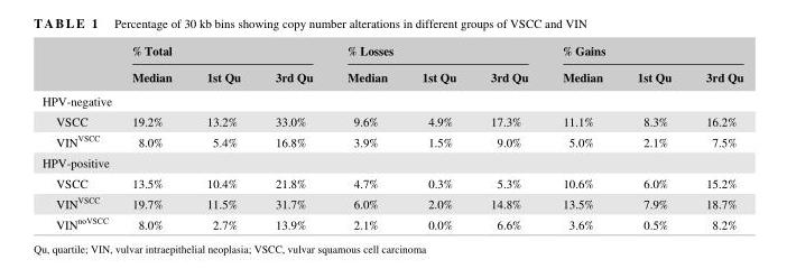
<table><thead><tr><td rowspan="2"></td><td colspan="3">% Total</td><td colspan="3">% Losses</td><td colspan="3">% Gains</td></tr><tr><td>Median</td><td>1st Qu</td><td>3rd Qu</td><td>Median</td><td>1st Qu</td><td>3rd Qu</td><td>Median</td><td>1st Qu</td><td>3rd Qu</td></tr></thead><tbody><tr><td colspan="10">HPV- negative</td></tr><tr><td>VSCC</td><td>19.2%</td><td>13.2%</td><td>33.0%</td><td>9.6%</td><td>4.9%</td><td>17.3%</td><td>11.1%</td><td>8.3%</td><td>16.2%</td></tr><tr><td>VIN<sup>VSCC</sup></td><td>8.0%</td><td>5.4%</td><td>16.8%</td><td>3.9%</td><td>1.5%</td><td>9.0%</td><td>5.0%</td><td>2.1%</td><td>7.5%</td></tr><tr><td colspan="10">HPV- positive</td></tr><tr><td>VSCC</td><td>13.5%</td><td>10.4%</td><td>21.8%</td><td>4.7%</td><td>0.3%</td><td>5.3%</td><td>10.6%</td><td>6.0%</td><td>15.2%</td></tr><tr><td>VIN<sup>VSCC</sup></td><td>19.7%</td><td>11.5%</td><td>31.7%</td><td>6.0%</td><td>2.0%</td><td>14.8%</td><td>13.5%</td><td>7.9%</td><td>18.7%</td></tr><tr><td>VIN<sup>noVSCC</sup></td><td>8.0%</td><td>2.7%</td><td>13.9%</td><td>2.1%</td><td>0.0%</td><td>6.6%</td><td>3.6%</td><td>0.5%</td><td>8.2%</td></tr></tbody></table>